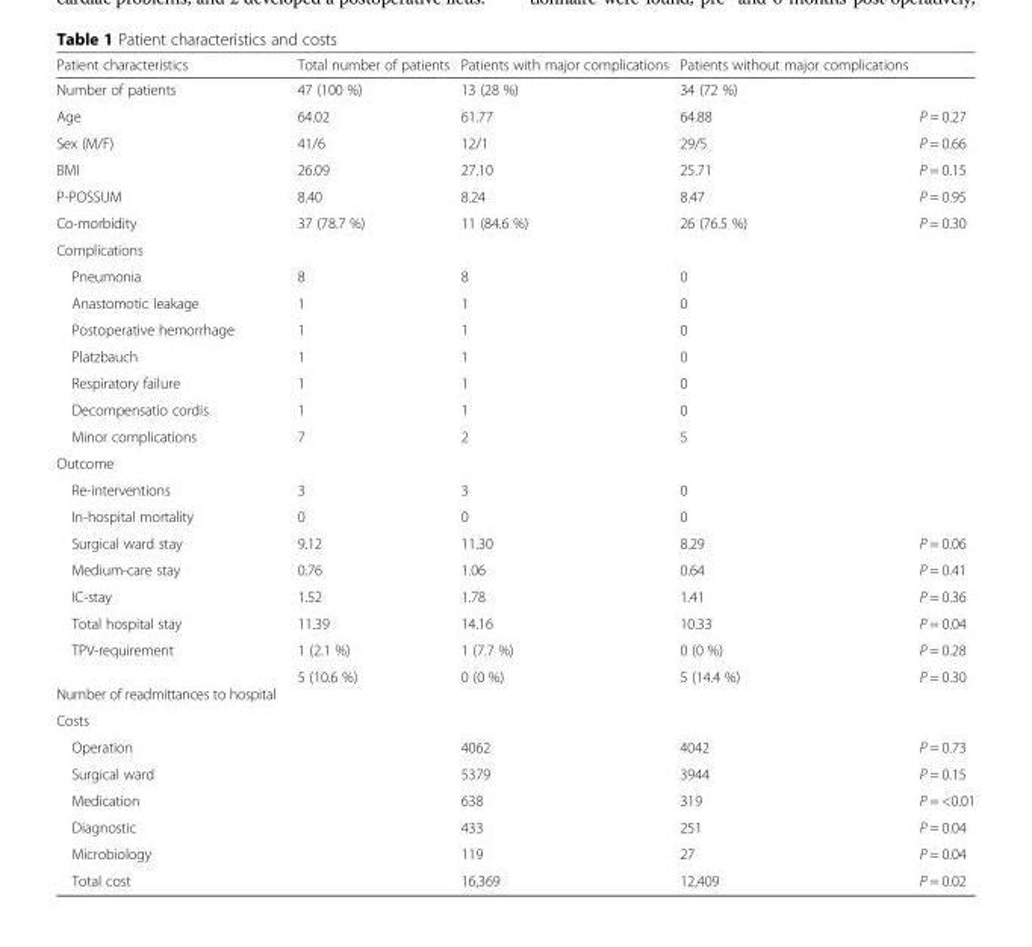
<table><thead><tr><td>Patient characteristics</td><td>Total number of patients</td><td>Patients with major complications</td><td>Patients without major complications</td><td></td></tr></thead><tbody><tr><td>Number of patients</td><td>47 (100 %)</td><td>13 (28 %)</td><td>34 (72 %)</td><td></td></tr><tr><td>Age</td><td>64.02</td><td>61.77</td><td>64.88</td><td>P = 0.27</td></tr><tr><td>Sex (M/F)</td><td>41/6</td><td>12/1</td><td>29/5</td><td>P = 0.66</td></tr><tr><td>BMI</td><td>26.09</td><td>27.10</td><td>25.71</td><td>P = 0.15</td></tr><tr><td>P-POSSUM</td><td>8.40</td><td>8.24</td><td>8.47</td><td>P = 0.95</td></tr><tr><td>Co-morbidity</td><td>37 (78.7 %)</td><td>11 (84.6 %)</td><td>26 (76.5 %)</td><td>P = 0.30</td></tr><tr><td colspan="5">Complications</td></tr><tr><td>Pneumonia</td><td>8</td><td>8</td><td>0</td><td></td></tr><tr><td>Anastomotic leakage</td><td>1</td><td>1</td><td>0</td><td></td></tr><tr><td>Postoperative hemorrhage</td><td>1</td><td>1</td><td>0</td><td></td></tr><tr><td>Platzbauch</td><td>1</td><td>1</td><td>0</td><td></td></tr><tr><td>Respiratory failure</td><td>1</td><td>1</td><td>0</td><td></td></tr><tr><td>Decompensatio cordis</td><td>1</td><td>1</td><td>0</td><td></td></tr><tr><td>Minor complications</td><td>7</td><td>2</td><td>5</td><td></td></tr><tr><td colspan="5">Outcome</td></tr><tr><td>Re-interventions</td><td>3</td><td>3</td><td>0</td><td></td></tr><tr><td>In-hospital mortality</td><td>0</td><td>0</td><td>0</td><td></td></tr><tr><td>Surgical ward stay</td><td>9.12</td><td>11.30</td><td>8.29</td><td>P = 0.06</td></tr><tr><td>Medium-care stay</td><td>0.76</td><td>1.06</td><td>0.64</td><td>P = 0.41</td></tr><tr><td>IC-stay</td><td>1.52</td><td>1.78</td><td>1.41</td><td>P = 0.36</td></tr><tr><td>Total hospital stay</td><td>11.39</td><td>14.16</td><td>10.33</td><td>P = 0.04</td></tr><tr><td>TPV-requirement</td><td>1 (2.1 %)</td><td>1 (7.7 %)</td><td>0 (0 %)</td><td>P = 0.28</td></tr><tr><td>Number of readmittances to hospital</td><td>5 (10.6 %)</td><td>0 (0 %)</td><td>5 (14.4 %)</td><td>P = 0.30</td></tr><tr><td colspan="5">Costs</td></tr><tr><td>Operation</td><td></td><td>4062</td><td>4042</td><td>P = 0.73</td></tr><tr><td>Surgical ward</td><td></td><td>5379</td><td>3944</td><td>P = 0.15</td></tr><tr><td>Medication</td><td></td><td>638</td><td>319</td><td>P = &lt;0.01</td></tr><tr><td>Diagnostic</td><td></td><td>433</td><td>251</td><td>P = 0.04</td></tr><tr><td>Microbiology</td><td></td><td>119</td><td>27</td><td>P = 0.04</td></tr><tr><td>Total cost</td><td></td><td>16,369</td><td>12,409</td><td>P = 0.02</td></tr></tbody></table>